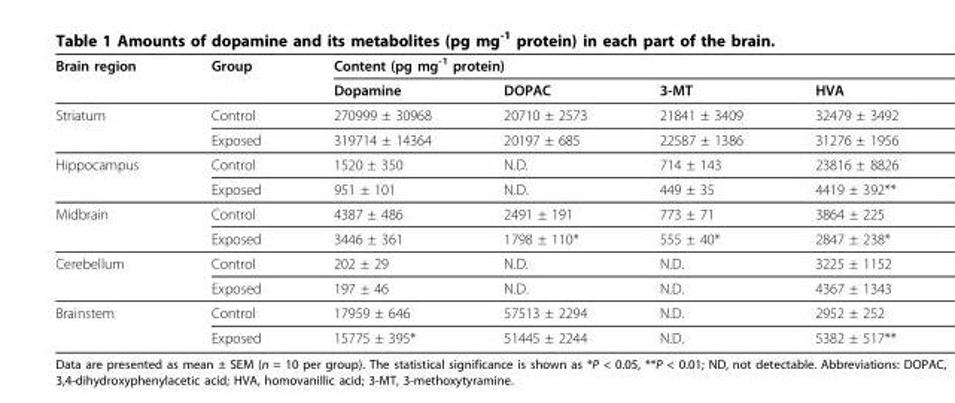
<table><thead><tr><td rowspan="2">Brain region</td><td rowspan="2">Group</td><td colspan="4">Content (pg mg<sup>-1</sup> protein)</td></tr><tr><td>Dopamine</td><td>DOPAC</td><td>3-MT</td><td>HVA</td></tr></thead><tbody><tr><td rowspan="2">Striatum</td><td>Control</td><td>270999 ± 30968</td><td>20710 ± 2573</td><td>21841 ± 3409</td><td>32479 ± 3492</td></tr><tr><td>Exposed</td><td>319714 ± 14364</td><td>20197 ± 685</td><td>22587 ± 1386</td><td>31276 ± 1956</td></tr><tr><td rowspan="2">Hippocampus</td><td>Control</td><td>1520 ± 350</td><td>N.D.</td><td>714 ± 143</td><td>23816 ± 8826</td></tr><tr><td>Exposed</td><td>951 ± 101</td><td>N.D.</td><td>449 ± 35</td><td>4419 ± 392**</td></tr><tr><td rowspan="2">Midbrain</td><td>Control</td><td>4387 ± 486</td><td>2491 ± 191</td><td>773 ± 71</td><td>3864 ± 225</td></tr><tr><td>Exposed</td><td>3446 ± 361</td><td>1798 ± 110*</td><td>555 ± 40*</td><td>2847 ± 238*</td></tr><tr><td rowspan="2">Cerebellum</td><td>Control</td><td>202 ± 29</td><td>N.D.</td><td>N.D.</td><td>3225 ± 1152</td></tr><tr><td>Exposed</td><td>197 ± 46</td><td>N.D.</td><td>N.D.</td><td>4367 ± 1343</td></tr><tr><td rowspan="2">Brainstem</td><td>Control</td><td>17959 ± 646</td><td>57513 ± 2294</td><td>N.D.</td><td>2952 ± 252</td></tr><tr><td>Exposed</td><td>15775 ± 395*</td><td>51445 ± 2244</td><td>N.D.</td><td>5382 ± 517**</td></tr></tbody></table>